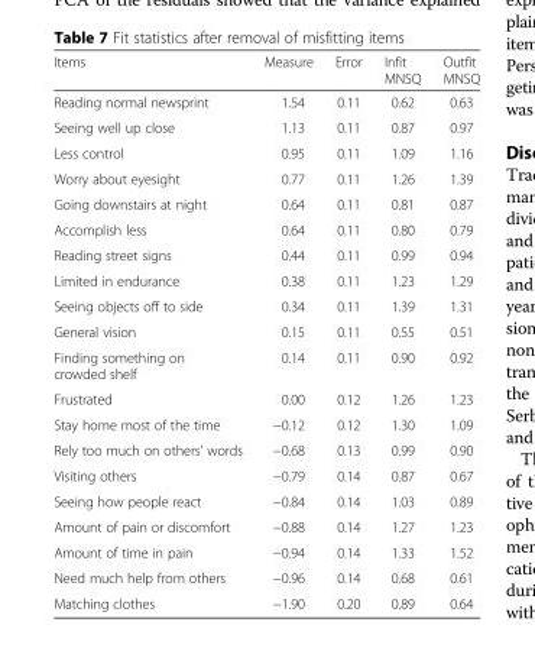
<table><thead><tr><td>Items</td><td>Measure</td><td>Error</td><td>Infit MNSQ</td><td>Outfit MNSQ</td></tr></thead><tbody><tr><td>Reading normal newsprint</td><td>1.54</td><td>0.11</td><td>0.62</td><td>0.63</td></tr><tr><td>Seeing well up close</td><td>1.13</td><td>0.11</td><td>0.87</td><td>0.97</td></tr><tr><td>Less control</td><td>0.95</td><td>0.11</td><td>1.09</td><td>1.16</td></tr><tr><td>Worry about eyesight</td><td>0.77</td><td>0.11</td><td>1.26</td><td>1.39</td></tr><tr><td>Going downstairs at night</td><td>0.64</td><td>0.11</td><td>0.81</td><td>0.87</td></tr><tr><td>Accomplish less</td><td>0.64</td><td>0.11</td><td>0.80</td><td>0.79</td></tr><tr><td>Reading street signs</td><td>0.44</td><td>0.11</td><td>0.99</td><td>0.94</td></tr><tr><td>Limited in endurance</td><td>0.38</td><td>0.11</td><td>1.23</td><td>1.29</td></tr><tr><td>Seeing objects off to side</td><td>0.34</td><td>0.11</td><td>1.39</td><td>1.31</td></tr><tr><td>General vision</td><td>0.15</td><td>0.11</td><td>0.55</td><td>0.51</td></tr><tr><td>Finding something on crowded shelf</td><td>0.14</td><td>0.11</td><td>0.90</td><td>0.92</td></tr><tr><td>Frustrated</td><td>0.00</td><td>0.12</td><td>1.26</td><td>1.23</td></tr><tr><td>Stay home most of the time</td><td>−0.12</td><td>0.12</td><td>1.30</td><td>1.09</td></tr><tr><td>Rely too much on others’ words</td><td>−0.68</td><td>0.13</td><td>0.99</td><td>0.90</td></tr><tr><td>Visiting others</td><td>−0.79</td><td>0.14</td><td>0.87</td><td>0.67</td></tr><tr><td>Seeing how people react</td><td>−0.84</td><td>0.14</td><td>1.03</td><td>0.89</td></tr><tr><td>Amount of pain or discomfort</td><td>−0.88</td><td>0.14</td><td>1.27</td><td>1.23</td></tr><tr><td>Amount of time in pain</td><td>−0.94</td><td>0.14</td><td>1.33</td><td>1.52</td></tr><tr><td>Need much help from others</td><td>−0.96</td><td>0.14</td><td>0.68</td><td>0.61</td></tr><tr><td>Matching clothes</td><td>−1.90</td><td>0.20</td><td>0.89</td><td>0.64</td></tr></tbody></table>